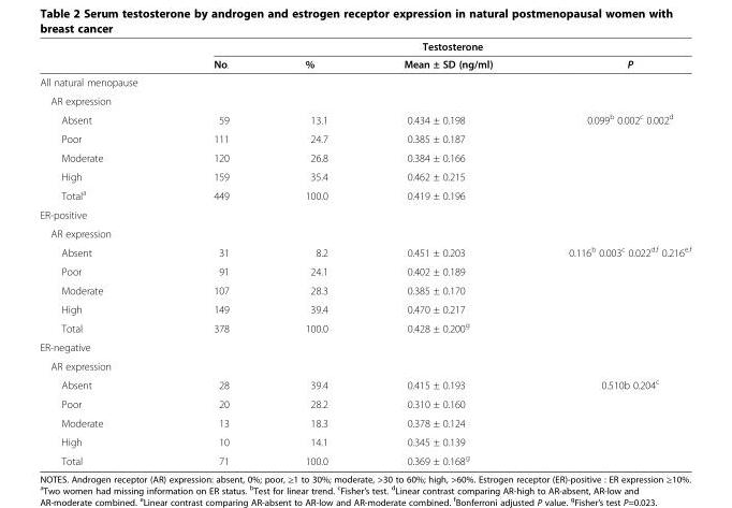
<table><thead><tr><td rowspan="2"></td><td colspan="4">Testosterone</td></tr><tr><td>No.</td><td>%</td><td>Mean ± SD (ng/ml)</td><td>P</td></tr></thead><tbody><tr><td colspan="5">All natural menopause</td></tr><tr><td colspan="5">AR expression</td></tr><tr><td>Absent</td><td>59</td><td>13.1</td><td>0.434 ± 0.198</td><td rowspan="4">0.099<sup>b</sup> 0.002<sup>c</sup> 0.002<sup>d</sup></td></tr><tr><td>Poor</td><td>111</td><td>24.7</td><td>0.385 ± 0.187</td></tr><tr><td>Moderate</td><td>120</td><td>26.8</td><td>0.384 ± 0.166</td></tr><tr><td>High</td><td>159</td><td>35.4</td><td>0.462 ± 0.215</td></tr><tr><td>Total<sup>a</sup></td><td>449</td><td>100.0</td><td>0.419 ± 0.196</td><td></td></tr><tr><td colspan="5">ER-positive</td></tr><tr><td colspan="5">AR expression</td></tr><tr><td>Absent</td><td>31</td><td>8.2</td><td>0.451 ± 0.203</td><td rowspan="4">0.116<sup>b</sup> 0.003<sup>c</sup> 0.022<sup>d,f</sup> 0.216<sup>e,f</sup></td></tr><tr><td>Poor</td><td>91</td><td>24.1</td><td>0.402 ± 0.189</td></tr><tr><td>Moderate</td><td>107</td><td>28.3</td><td>0.385 ± 0.170</td></tr><tr><td>High</td><td>149</td><td>39.4</td><td>0.470 ± 0.217</td></tr><tr><td>Total</td><td>378</td><td>100.0</td><td>0.428 ± 0.200<sup>g</sup></td><td></td></tr><tr><td colspan="5">ER-negative</td></tr><tr><td colspan="5">AR expression</td></tr><tr><td>Absent</td><td>28</td><td>39.4</td><td>0.415 ± 0.193</td><td rowspan="4">0.510b 0.204<sup>c</sup></td></tr><tr><td>Poor</td><td>20</td><td>28.2</td><td>0.310 ± 0.160</td></tr><tr><td>Moderate</td><td>13</td><td>18.3</td><td>0.378 ± 0.124</td></tr><tr><td>High</td><td>10</td><td>14.1</td><td>0.345 ± 0.139</td></tr><tr><td>Total</td><td>71</td><td>100.0</td><td>0.369 ± 0.168<sup>g</sup></td><td></td></tr></tbody></table>